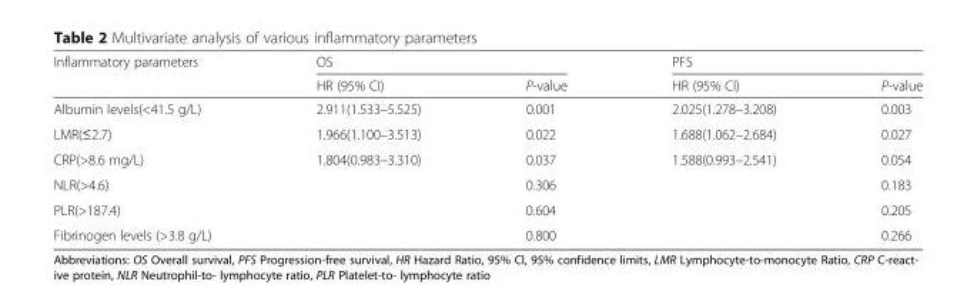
<table><thead><tr><td rowspan="2">Inflammatory parameters</td><td colspan="2">OS</td><td colspan="2">PFS</td></tr><tr><td>HR (95% CI)</td><td>P-value</td><td>HR (95% Cl)</td><td>P-value</td></tr></thead><tbody><tr><td>Albumin levels(&lt;41.5 g/L)</td><td>2.911(1.533–5.525)</td><td>0.001</td><td>2.025(1.278–3.208)</td><td>0.003</td></tr><tr><td>LMR(≤2.7)</td><td>1.966(1.100–3.513)</td><td>0.022</td><td>1.688(1.062–2.684)</td><td>0.027</td></tr><tr><td>CRP(&gt;8.6 mg/L)</td><td>1.804(0.983–3.310)</td><td>0.037</td><td>1.588(0.993–2.541)</td><td>0.054</td></tr><tr><td>NLR(&gt;4.6)</td><td></td><td>0.306</td><td></td><td>0.183</td></tr><tr><td>PLR(&gt;187.4)</td><td></td><td>0.604</td><td></td><td>0.205</td></tr><tr><td>Fibrinogen levels (&gt;3.8 g/L)</td><td></td><td>0.800</td><td></td><td>0.266</td></tr></tbody></table>